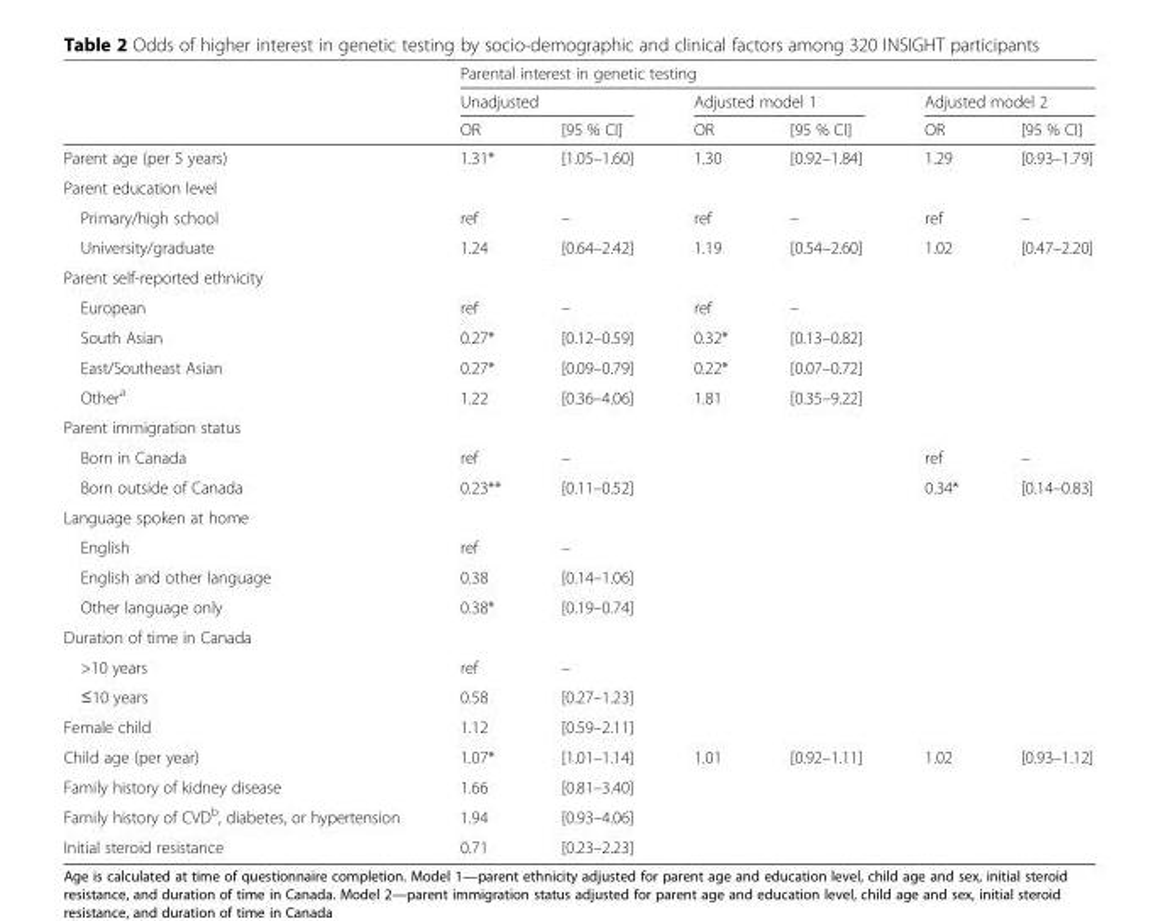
<table><thead><tr><td rowspan="3"></td><td colspan="6">Parental interest in genetic testing</td></tr><tr><td colspan="2">Unadjusted</td><td colspan="2">Adjusted model 1</td><td colspan="2">Adjusted model 2</td></tr><tr><td>OR</td><td>[95 % CI]</td><td>OR</td><td>[95 % CI]</td><td>OR</td><td>[95 % CI]</td></tr></thead><tbody><tr><td>Parent age (per 5 years)</td><td>1.31*</td><td>[1.05–1.60]</td><td>1.30</td><td>[0.92–1.84]</td><td>1.29</td><td>[0.93–1.79]</td></tr><tr><td colspan="7">Parent education level</td></tr><tr><td>Primary/high school</td><td>ref</td><td>–</td><td>ref</td><td>–</td><td>ref</td><td>–</td></tr><tr><td>University/graduate</td><td>1.24</td><td>[0.64–2.42]</td><td>1.19</td><td>[0.54–2.60]</td><td>1.02</td><td>[0.47–2.20]</td></tr><tr><td colspan="7">Parent self-reported ethnicity</td></tr><tr><td>European</td><td>ref</td><td>–</td><td>ref</td><td>–</td><td></td><td></td></tr><tr><td>South Asian</td><td>0.27*</td><td>[0.12–0.59]</td><td>0.32*</td><td>[0.13–0.82]</td><td></td><td></td></tr><tr><td>East/Southeast Asian</td><td>0.27*</td><td>[0.09–0.79]</td><td>0.22*</td><td>[0.07–0.72]</td><td></td><td></td></tr><tr><td>Other<sup>a</sup></td><td>1.22</td><td>[0.36–4.06]</td><td>1.81</td><td>[0.35–9.22]</td><td></td><td></td></tr><tr><td colspan="7">Parent immigration status</td></tr><tr><td>Born in Canada</td><td>ref</td><td>–</td><td></td><td></td><td>ref</td><td>–</td></tr><tr><td>Born outside of Canada</td><td>0.23**</td><td>[0.11–0.52]</td><td></td><td></td><td>0.34*</td><td>[0.14–0.83]</td></tr><tr><td colspan="7">Language spoken at home</td></tr><tr><td>English</td><td>ref</td><td>–</td><td></td><td></td><td></td><td></td></tr><tr><td>English and other language</td><td>0.38</td><td>[0.14–1.06]</td><td></td><td></td><td></td><td></td></tr><tr><td>Other language only</td><td>0.38*</td><td>[0.19–0.74]</td><td></td><td></td><td></td><td></td></tr><tr><td colspan="7">Duration of time in Canada</td></tr><tr><td>&gt;10 years</td><td>ref</td><td>–</td><td></td><td></td><td></td><td></td></tr><tr><td>≤10 years</td><td>0.58</td><td>[0.27–1.23]</td><td></td><td></td><td></td><td></td></tr><tr><td>Female child</td><td>1.12</td><td>[0.59–2.11]</td><td></td><td></td><td></td><td></td></tr><tr><td>Child age (per year)</td><td>1.07*</td><td>[1.01–1.14]</td><td>1.01</td><td>[0.92–1.11]</td><td>1.02</td><td>[0.93–1.12]</td></tr><tr><td>Family history of kidney disease</td><td>1.66</td><td>[0.81–3.40]</td><td></td><td></td><td></td><td></td></tr><tr><td>Family history of CVD<sup>b</sup>, diabetes, or hypertension</td><td>1.94</td><td>[0.93–4.06]</td><td></td><td></td><td></td><td></td></tr><tr><td>Initial steroid resistance</td><td>0.71</td><td>[0.23–2.23]</td><td></td><td></td><td></td><td></td></tr></tbody></table>